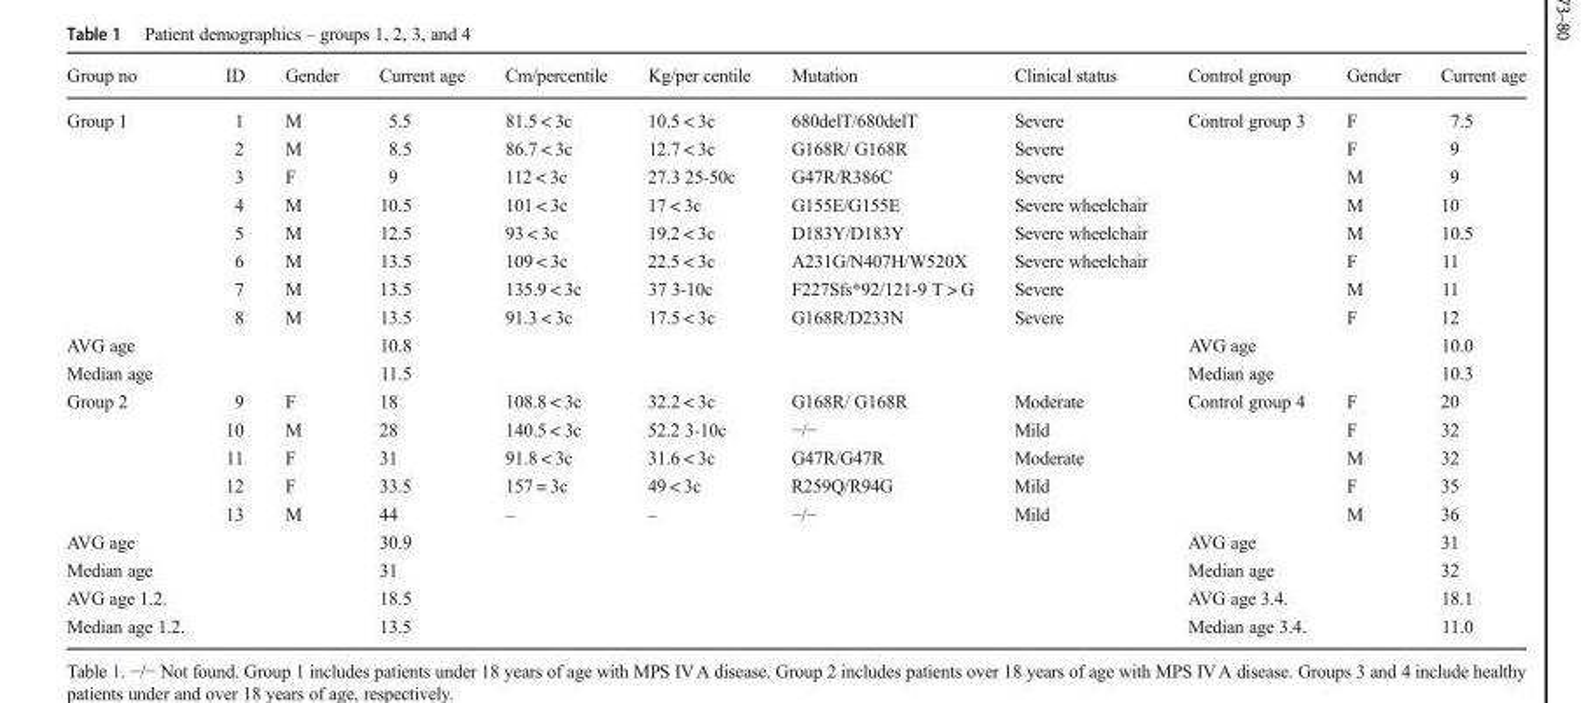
<table><thead><tr><td>Group no</td><td>ID</td><td>Gender</td><td>Current age</td><td>Cm/percentile</td><td>Kg/per centile</td><td>Mutation</td><td>Clinical status</td><td>Control group</td><td>Gender</td><td>Current age</td></tr></thead><tbody><tr><td rowspan="8">Group 1</td><td>1</td><td>M</td><td>5.5</td><td>81.5 &lt; 3c</td><td>10.5 &lt; 3c</td><td>680delT/680delT</td><td>Severe</td><td>Control group 3</td><td>F</td><td>7.5</td></tr><tr><td>2</td><td>M</td><td>8.5</td><td>86.7 &lt; 3c</td><td>12.7 &lt; 3c</td><td>G168R/ G168R</td><td>Severe</td><td></td><td>F</td><td>9</td></tr><tr><td>3</td><td>F</td><td>9</td><td>112 &lt; 3c</td><td>27.3 25-50c</td><td>G47R/R386C</td><td>Severe</td><td></td><td>M</td><td>9</td></tr><tr><td>4</td><td>M</td><td>10.5</td><td>101 &lt; 3c</td><td>17 &lt; 3c</td><td>G155E/G155E</td><td>Severe wheelchair</td><td></td><td>M</td><td>10</td></tr><tr><td>5</td><td>M</td><td>12.5</td><td>93 &lt; 3c</td><td>19.2 &lt; 3c</td><td>D183Y/D183Y</td><td>Severe wheelchair</td><td></td><td>M</td><td>10.5</td></tr><tr><td>6</td><td>M</td><td>13.5</td><td>109 &lt; 3c</td><td>22.5 &lt; 3c</td><td>A231G/N407H/W520X</td><td>Severe wheelchair</td><td></td><td>F</td><td>11</td></tr><tr><td>7</td><td>M</td><td>13.5</td><td>135.9 &lt; 3c</td><td>37 3-10c</td><td>F227Sfs*92/121-9 T &gt; G</td><td>Severe</td><td></td><td>M</td><td>11</td></tr><tr><td>8</td><td>M</td><td>13.5</td><td>91.3 &lt; 3c</td><td>17.5 &lt; 3c</td><td>G168R/D233N</td><td>Severe</td><td></td><td>F</td><td>12</td></tr><tr><td>AVG age</td><td></td><td></td><td>10.8</td><td></td><td></td><td></td><td></td><td>AVG age</td><td></td><td>10.0</td></tr><tr><td>Median age</td><td></td><td></td><td>11.5</td><td></td><td></td><td></td><td></td><td>Median age</td><td></td><td>10.3</td></tr><tr><td rowspan="5">Group 2</td><td>9</td><td>F</td><td>18</td><td>108.8 &lt; 3c</td><td>32.2 &lt; 3c</td><td>G168R/ G168R</td><td>Moderate</td><td>Control group 4</td><td>F</td><td>20</td></tr><tr><td>10</td><td>M</td><td>28</td><td>140.5 &lt; 3c</td><td>52.2 3-10c</td><td>−/−</td><td>Mild</td><td></td><td>F</td><td>32</td></tr><tr><td>11</td><td>F</td><td>31</td><td>91.8 &lt; 3c</td><td>31.6 &lt; 3c</td><td>G47R/G47R</td><td>Moderate</td><td></td><td>M</td><td>32</td></tr><tr><td>12</td><td>F</td><td>33.5</td><td>157 = 3c</td><td>49 &lt; 3c</td><td>R259Q/R94G</td><td>Mild</td><td></td><td>F</td><td>35</td></tr><tr><td>13</td><td>M</td><td>44</td><td>–</td><td>–</td><td>−/−</td><td>Mild</td><td></td><td>M</td><td>36</td></tr><tr><td>AVG age</td><td></td><td></td><td>30.9</td><td></td><td></td><td></td><td></td><td>AVG age</td><td></td><td>31</td></tr><tr><td>Median age</td><td></td><td></td><td>31</td><td></td><td></td><td></td><td></td><td>Median age</td><td></td><td>32</td></tr><tr><td>AVG age 1.2.</td><td></td><td></td><td>18.5</td><td></td><td></td><td></td><td></td><td>AVG age 3.4.</td><td></td><td>18.1</td></tr><tr><td>Median age 1.2.</td><td></td><td></td><td>13.5</td><td></td><td></td><td></td><td></td><td>Median age 3.4.</td><td></td><td>11.0</td></tr></tbody></table>